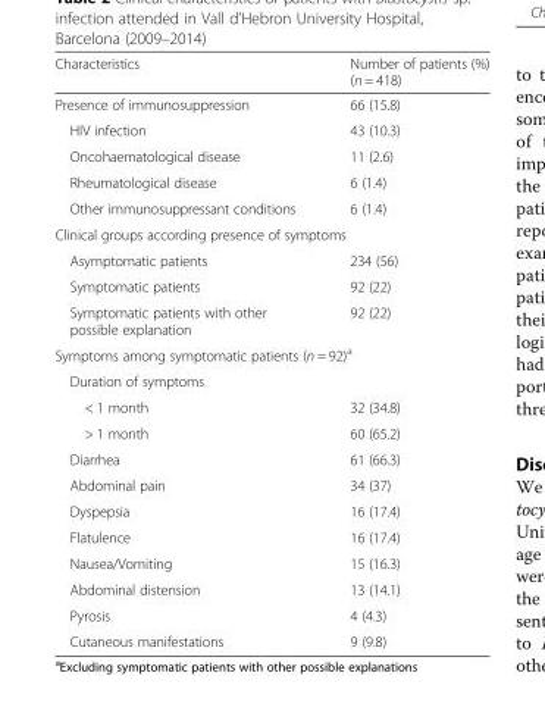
<table><thead><tr><td>Characteristics</td><td>Number of patients (%) (n = 418)</td></tr></thead><tbody><tr><td>Presence of immunosuppression</td><td>66 (15.8)</td></tr><tr><td>HIV infection</td><td>43 (10.3)</td></tr><tr><td>Oncohaematological disease</td><td>11 (2.6)</td></tr><tr><td>Rheumatological disease</td><td>6 (1.4)</td></tr><tr><td>Other immunosuppressant conditions</td><td>6 (1.4)</td></tr><tr><td colspan="2">Clinical groups according presence of symptoms</td></tr><tr><td>Asymptomatic patients</td><td>234 (56)</td></tr><tr><td>Symptomatic patients</td><td>92 (22)</td></tr><tr><td>Symptomatic patients with other possible explanation</td><td>92 (22)</td></tr><tr><td colspan="2">Symptoms among symptomatic patients (n = 92)<sup>a</sup></td></tr><tr><td colspan="2">Duration of symptoms</td></tr><tr><td>&lt; 1 month</td><td>32 (34.8)</td></tr><tr><td>&gt; 1 month</td><td>60 (65.2)</td></tr><tr><td>Diarrhea</td><td>61 (66.3)</td></tr><tr><td>Abdominal pain</td><td>34 (37)</td></tr><tr><td>Dyspepsia</td><td>16 (17.4)</td></tr><tr><td>Flatulence</td><td>16 (17.4)</td></tr><tr><td>Nausea/Vomiting</td><td>15 (16.3)</td></tr><tr><td>Abdominal distension</td><td>13 (14.1)</td></tr><tr><td>Pyrosis</td><td>4 (4.3)</td></tr><tr><td>Cutaneous manifestations</td><td>9 (9.8)</td></tr></tbody></table>